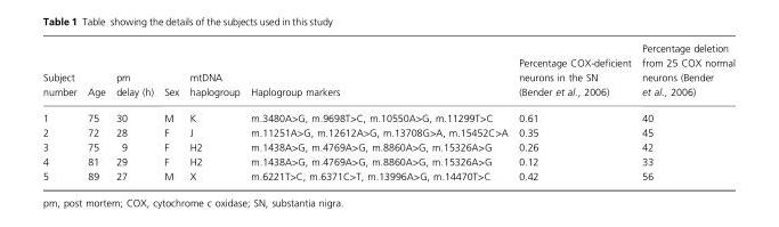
<table><thead><tr><td>Subject number</td><td>Age</td><td>pm delay (h)</td><td>Sex</td><td>mtDNA haplogroup</td><td>Haplogroup markers</td><td>Percentage COX-deficient neurons in the SN (Bender et al., 2006)</td><td>Percentage deletion from 25 COX normal neurons (Bender et al., 2006)</td></tr></thead><tbody><tr><td>1</td><td>75</td><td>30</td><td>M</td><td>K</td><td>m.3480A&gt;G, m.9698T&gt;C, m.10550A&gt;G, m.11299T&gt;C</td><td>0.61</td><td>40</td></tr><tr><td>2</td><td>72</td><td>28</td><td>F</td><td>J</td><td>m.11251A&gt;G, m.12612A&gt;G, m.13708G&gt;A, m.15452C&gt;A</td><td>0.35</td><td>45</td></tr><tr><td>3</td><td>75</td><td>9</td><td>F</td><td>H2</td><td>m.1438A&gt;G, m.4769A&gt;G, m.8860A&gt;G, m.15326A&gt;G</td><td>0.26</td><td>42</td></tr><tr><td>4</td><td>81</td><td>29</td><td>F</td><td>H2</td><td>m.1438A&gt;G, m.4769A&gt;G, m.8860A&gt;G, m.15326A&gt;G</td><td>0.12</td><td>33</td></tr><tr><td>5</td><td>89</td><td>27</td><td>M</td><td>X</td><td>m.6221T&gt;C, m.6371C&gt;T, m.13996A&gt;G, m.14470T&gt;C</td><td>0.42</td><td>56</td></tr></tbody></table>